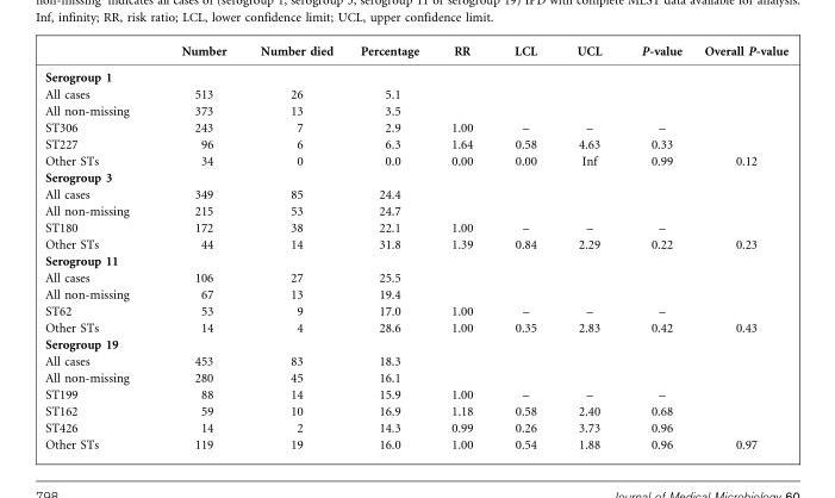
<table><thead><tr><td></td><td>Number</td><td>Number died</td><td>Percentage</td><td>RR</td><td>LCL</td><td>UCL</td><td>P-value</td><td>Overall P-value</td></tr></thead><tbody><tr><td colspan="9">Serogroup 1</td></tr><tr><td>All cases</td><td>513</td><td>26</td><td>5.1</td><td></td><td></td><td></td><td></td><td></td></tr><tr><td>All non-missing</td><td>373</td><td>13</td><td>3.5</td><td></td><td></td><td></td><td></td><td></td></tr><tr><td>ST306</td><td>243</td><td>7</td><td>2.9</td><td>1.00</td><td>–</td><td>–</td><td>–</td><td></td></tr><tr><td>ST227</td><td>96</td><td>6</td><td>6.3</td><td>1.64</td><td>0.58</td><td>4.63</td><td>0.33</td><td></td></tr><tr><td>Other STs</td><td>34</td><td>0</td><td>0.0</td><td>0.00</td><td>0.00</td><td>Inf</td><td>0.99</td><td>0.12</td></tr><tr><td colspan="9">Serogroup 3</td></tr><tr><td>All cases</td><td>349</td><td>85</td><td>24.4</td><td></td><td></td><td></td><td></td><td></td></tr><tr><td>All non-missing</td><td>215</td><td>53</td><td>24.7</td><td></td><td></td><td></td><td></td><td></td></tr><tr><td>ST180</td><td>172</td><td>38</td><td>22.1</td><td>1.00</td><td>–</td><td>–</td><td>–</td><td></td></tr><tr><td>Other STs</td><td>44</td><td>14</td><td>31.8</td><td>1.39</td><td>0.84</td><td>2.29</td><td>0.22</td><td>0.23</td></tr><tr><td colspan="9">Serogroup 11</td></tr><tr><td>All cases</td><td>106</td><td>27</td><td>25.5</td><td></td><td></td><td></td><td></td><td></td></tr><tr><td>All non-missing</td><td>67</td><td>13</td><td>19.4</td><td></td><td></td><td></td><td></td><td></td></tr><tr><td>ST62</td><td>53</td><td>9</td><td>17.0</td><td>1.00</td><td>–</td><td>–</td><td>–</td><td></td></tr><tr><td>Other STs</td><td>14</td><td>4</td><td>28.6</td><td>1.00</td><td>0.35</td><td>2.83</td><td>0.42</td><td>0.43</td></tr><tr><td colspan="9">Serogroup 19</td></tr><tr><td>All cases</td><td>453</td><td>83</td><td>18.3</td><td></td><td></td><td></td><td></td><td></td></tr><tr><td>All non-missing</td><td>280</td><td>45</td><td>16.1</td><td></td><td></td><td></td><td></td><td></td></tr><tr><td>ST199</td><td>88</td><td>14</td><td>15.9</td><td>1.00</td><td>–</td><td>–</td><td>–</td><td></td></tr><tr><td>ST162</td><td>59</td><td>10</td><td>16.9</td><td>1.18</td><td>0.58</td><td>2.40</td><td>0.68</td><td></td></tr><tr><td>ST426</td><td>14</td><td>2</td><td>14.3</td><td>0.99</td><td>0.26</td><td>3.73</td><td>0.96</td><td></td></tr><tr><td>Other STs</td><td>119</td><td>19</td><td>16.0</td><td>1.00</td><td>0.54</td><td>1.88</td><td>0.96</td><td>0.97</td></tr></tbody></table>